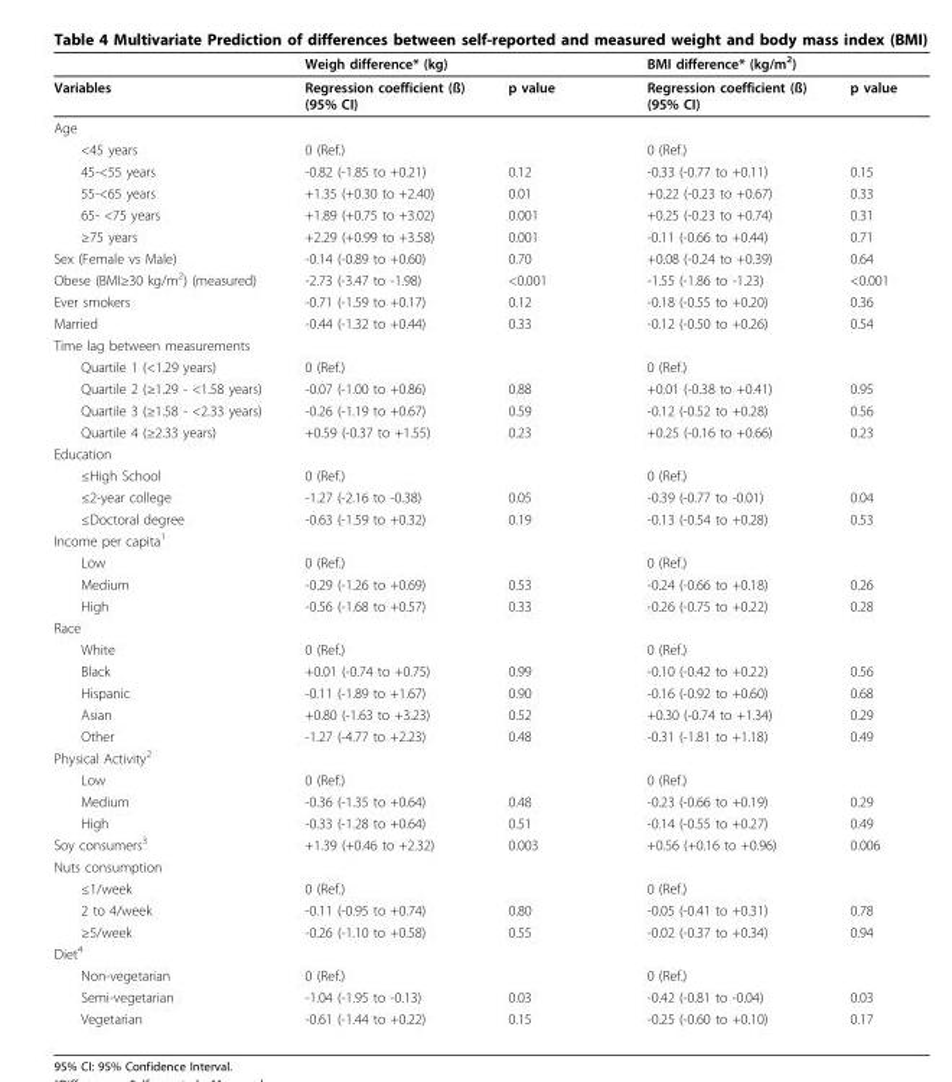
<table><thead><tr><td></td><td>Weigh difference* (kg)</td><td></td><td>BMI difference* (kg/m<sup>2</sup>)</td><td></td></tr></thead><tbody><tr><td>Variables</td><td>Regression coefficient (ß) (95% CI)</td><td>p value</td><td>Regression coefficient (ß) (95% CI)</td><td>p value</td></tr><tr><td colspan="5">Age</td></tr><tr><td>&lt;45 years</td><td>0 (Ref.)</td><td></td><td>0 (Ref.)</td><td></td></tr><tr><td>45-&lt;55 years</td><td>-0.82 (-1.85 to +0.21)</td><td>0.12</td><td>-0.33 (-0.77 to +0.11)</td><td>0.15</td></tr><tr><td>55-&lt;65 years</td><td>+1.35 (+0.30 to +2.40)</td><td>0.01</td><td>+0.22 (-0.23 to +0.67)</td><td>0.33</td></tr><tr><td>65- &lt;75 years</td><td>+1.89 (+0.75 to +3.02)</td><td>0.001</td><td>+0.25 (-0.23 to +0.74)</td><td>0.31</td></tr><tr><td>≥75 years</td><td>+2.29 (+0.99 to +3.58)</td><td>0.001</td><td>-0.11 (-0.66 to +0.44)</td><td>0.71</td></tr><tr><td>Sex (Female vs Male)</td><td>-0.14 (-0.89 to +0.60)</td><td>0.70</td><td>+0.08 (-0.24 to +0.39)</td><td>0.64</td></tr><tr><td>Obese (BMI≥30 kg/m<sup>2</sup>) (measured)</td><td>-2.73 (-3.47 to -1.98)</td><td>&lt;0.001</td><td>-1.55 (-1.86 to -1.23)</td><td>&lt;0.001</td></tr><tr><td>Ever smokers</td><td>-0.71 (-1.59 to +0.17)</td><td>0.12</td><td>-0.18 (-0.55 to +0.20)</td><td>0.36</td></tr><tr><td>Married</td><td>-0.44 (-1.32 to +0.44)</td><td>0.33</td><td>-0.12 (-0.50 to +0.26)</td><td>0.54</td></tr><tr><td colspan="5">Time lag between measurements</td></tr><tr><td>Quartile 1 (&lt;1.29 years)</td><td>0 (Ref.)</td><td></td><td>0 (Ref.)</td><td></td></tr><tr><td>Quartile 2 (≥1.29 - &lt;1.58 years)</td><td>-0.07 (-1.00 to +0.86)</td><td>0.88</td><td>+0.01 (-0.38 to +0.41)</td><td>0.95</td></tr><tr><td>Quartile 3 (≥1.58 - &lt;2.33 years)</td><td>-0.26 (-1.19 to +0.67)</td><td>0.59</td><td>-0.12 (-0.52 to +0.28)</td><td>0.56</td></tr><tr><td>Quartile 4 (≥2.33 years)</td><td>+0.59 (-0.37 to +1.55)</td><td>0.23</td><td>+0.25 (-0.16 to +0.66)</td><td>0.23</td></tr><tr><td colspan="5">Education</td></tr><tr><td>≤High School</td><td>0 (Ref.)</td><td></td><td>0 (Ref.)</td><td></td></tr><tr><td>≤2-year college</td><td>-1.27 (-2.16 to -0.38)</td><td>0.05</td><td>-0.39 (-0.77 to -0.01)</td><td>0.04</td></tr><tr><td>≤Doctoral degree</td><td>-0.63 (-1.59 to +0.32)</td><td>0.19</td><td>-0.13 (-0.54 to +0.28)</td><td>0.53</td></tr><tr><td colspan="5">Income per capita<sup>1</sup></td></tr><tr><td>Low</td><td>0 (Ref.)</td><td></td><td>0 (Ref.)</td><td></td></tr><tr><td>Medium</td><td>-0.29 (-1.26 to +0.69)</td><td>0.53</td><td>-0.24 (-0.66 to +0.18)</td><td>0.26</td></tr><tr><td>High</td><td>-0.56 (-1.68 to +0.57)</td><td>0.33</td><td>-0.26 (-0.75 to +0.22)</td><td>0.28</td></tr><tr><td colspan="5">Race</td></tr><tr><td>White</td><td>0 (Ref.)</td><td></td><td>0 (Ref.)</td><td></td></tr><tr><td>Black</td><td>+0.01 (-0.74 to +0.75)</td><td>0.99</td><td>-0.10 (-0.42 to +0.22)</td><td>0.56</td></tr><tr><td>Hispanic</td><td>-0.11 (-1.89 to +1.67)</td><td>0.90</td><td>-0.16 (-0.92 to +0.60)</td><td>0.68</td></tr><tr><td>Asian</td><td>+0.80 (-1.63 to +3.23)</td><td>0.52</td><td>+0.30 (-0.74 to +1.34)</td><td>0.29</td></tr><tr><td>Other</td><td>-1.27 (-4.77 to +2.23)</td><td>0.48</td><td>-0.31 (-1.81 to +1.18)</td><td>0.49</td></tr><tr><td colspan="5">Physical Activity<sup>2</sup></td></tr><tr><td>Low</td><td>0 (Ref.)</td><td></td><td>0 (Ref.)</td><td></td></tr><tr><td>Medium</td><td>-0.36 (-1.35 to +0.64)</td><td>0.48</td><td>-0.23 (-0.66 to +0.19)</td><td>0.29</td></tr><tr><td>High</td><td>-0.33 (-1.28 to +0.64)</td><td>0.51</td><td>-0.14 (-0.55 to +0.27)</td><td>0.49</td></tr><tr><td>Soy consumers<sup>3</sup></td><td>+1.39 (+0.46 to +2.32)</td><td>0.003</td><td>+0.56 (+0.16 to +0.96)</td><td>0.006</td></tr><tr><td colspan="5">Nuts consumption</td></tr><tr><td>≤1/week</td><td>0 (Ref.)</td><td></td><td>0 (Ref.)</td><td></td></tr><tr><td>2 to 4/week</td><td>-0.11 (-0.95 to +0.74)</td><td>0.80</td><td>-0.05 (-0.41 to +0.31)</td><td>0.78</td></tr><tr><td>≥5/week</td><td>-0.26 (-1.10 to +0.58)</td><td>0.55</td><td>-0.02 (-0.37 to +0.34)</td><td>0.94</td></tr><tr><td colspan="5">Diet<sup>4</sup></td></tr><tr><td>Non-vegetarian</td><td>0 (Ref.)</td><td></td><td>0 (Ref.)</td><td></td></tr><tr><td>Semi-vegetarian</td><td>-1.04 (-1.95 to -0.13)</td><td>0.03</td><td>-0.42 (-0.81 to -0.04)</td><td>0.03</td></tr><tr><td>Vegetarian</td><td>-0.61 (-1.44 to +0.22)</td><td>0.15</td><td>-0.25 (-0.60 to +0.10)</td><td>0.17</td></tr></tbody></table>